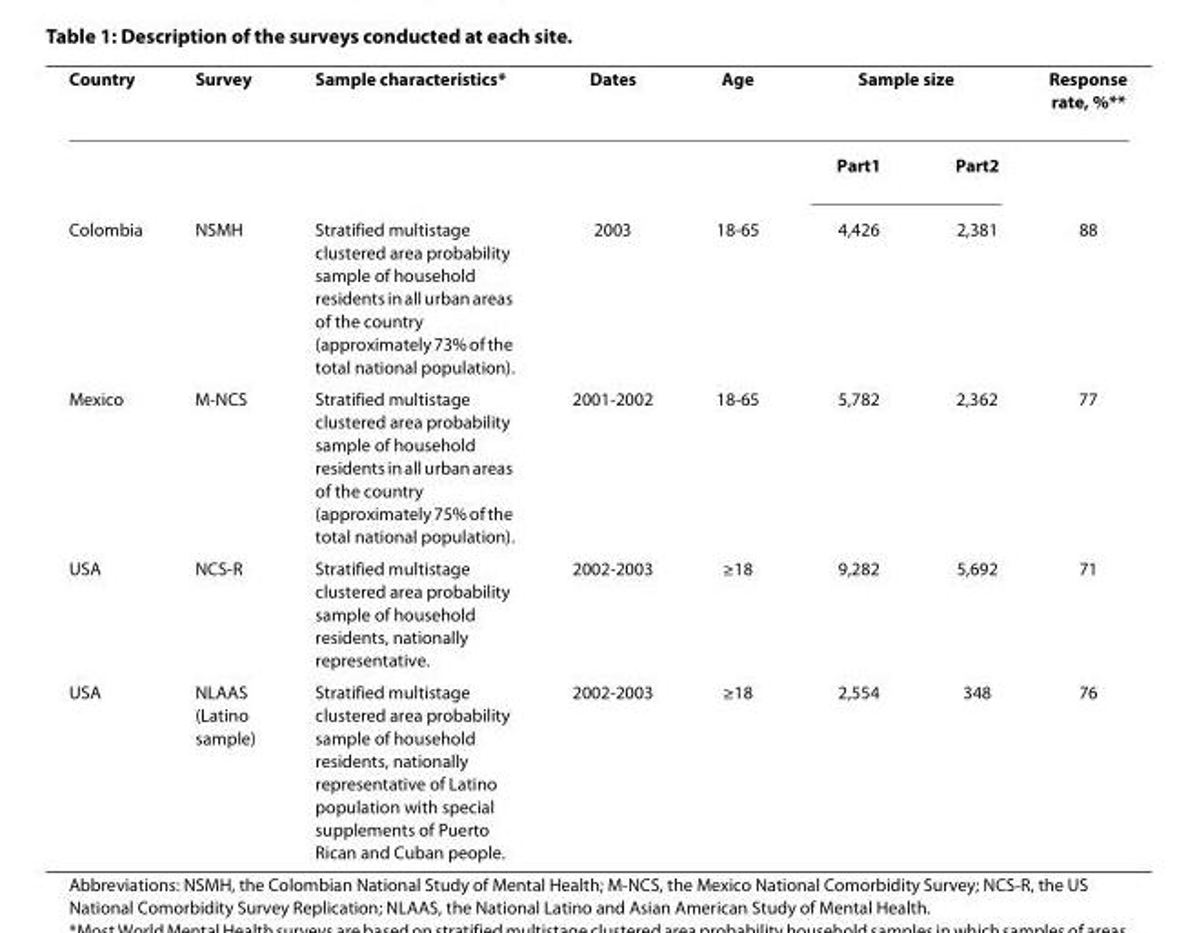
<table><thead><tr><td rowspan="2">Country</td><td rowspan="2">Survey</td><td rowspan="2">Sample characteristics*</td><td rowspan="2">Dates</td><td rowspan="2">Age</td><td colspan="2">Sample size</td><td rowspan="2">Response rate, %**</td></tr><tr><td>Part1</td><td>Part2</td></tr></thead><tbody><tr><td>Colombia</td><td>NSMH</td><td>Stratified multistage clustered area probability sample of household residents in all urban areas of the country (approximately 73% of the total national population).</td><td>2003</td><td>18-65</td><td>4,426</td><td>2,381</td><td>88</td></tr><tr><td>Mexico</td><td>M-NCS</td><td>Stratified multistage clustered area probability sample of household residents in all urban areas of the country (approximately 75% of the total national population).</td><td>2001-2002</td><td>18-65</td><td>5,782</td><td>2,362</td><td>77</td></tr><tr><td>USA</td><td>NCS-R</td><td>Stratified multistage clustered area probability sample of household residents, nationally representative.</td><td>2002-2003</td><td>≥18</td><td>9,282</td><td>5,692</td><td>71</td></tr><tr><td>USA</td><td>NLAAS (Latino sample)</td><td>Stratified multistage clustered area probability sample of household residents, nationally representative of Latino population with special supplements of Puerto Rican and Cuban people.</td><td>2002-2003</td><td>≥18</td><td>2,554</td><td>348</td><td>76</td></tr></tbody></table>